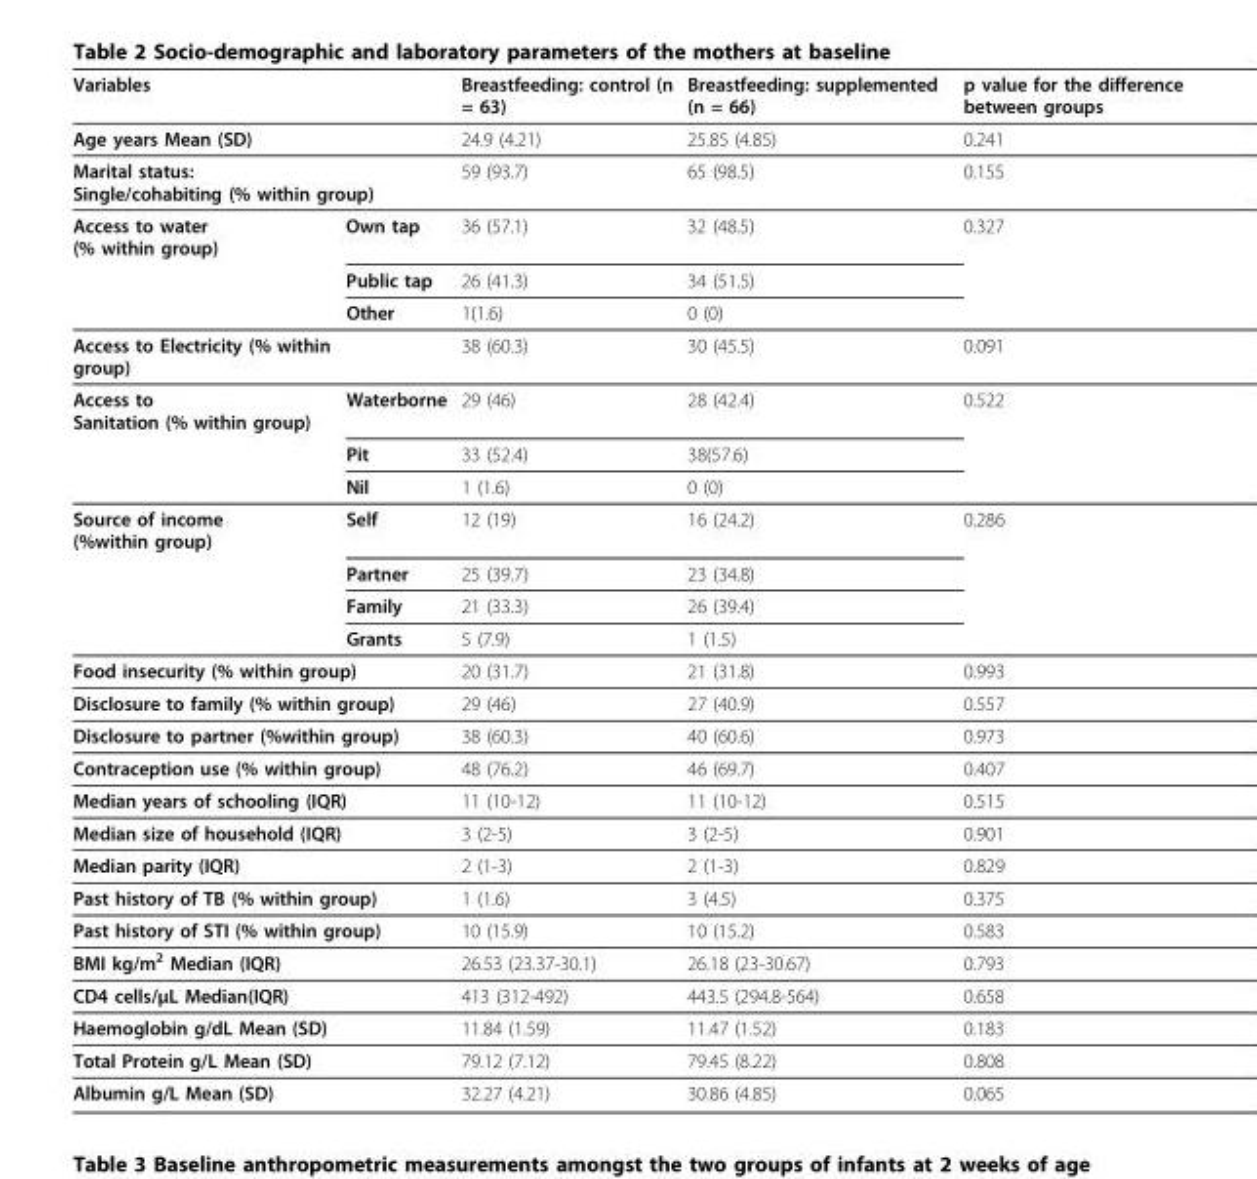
<table><thead><tr><td>Variables</td><td></td><td>Breastfeeding: control (n = 63)</td><td>Breastfeeding: supplemented (n = 66)</td><td>p value for the difference between groups</td></tr></thead><tbody><tr><td>Age years Mean (SD)</td><td></td><td>24.9 (4.21)</td><td>25.85 (4.85)</td><td>0.241</td></tr><tr><td colspan="2">Marital status: Single/cohabiting (% within group)</td><td>59 (93.7)</td><td>65 (98.5)</td><td>0.155</td></tr><tr><td rowspan="3">Access to water (% within group)</td><td>Own tap</td><td>36 (57.1)</td><td>32 (48.5)</td><td>0.327</td></tr><tr><td>Public tap</td><td>26 (41.3)</td><td>34 (51.5)</td><td></td></tr><tr><td>Other</td><td>1(1.6)</td><td>0 (0)</td><td></td></tr><tr><td>Access to Electricity (% within group)</td><td></td><td>38 (60.3)</td><td>30 (45.5)</td><td>0.091</td></tr><tr><td rowspan="3">Access to Sanitation (% within group)</td><td>Waterborne</td><td>29 (46)</td><td>28 (42.4)</td><td>0.522</td></tr><tr><td>Pit</td><td>33 (52.4)</td><td>38(57.6)</td><td></td></tr><tr><td>Nil</td><td>1 (1.6)</td><td>0 (0)</td><td></td></tr><tr><td rowspan="4">Source of income (%within group)</td><td>Self</td><td>12 (19)</td><td>16 (24.2)</td><td>0.286</td></tr><tr><td>Partner</td><td>25 (39.7)</td><td>23 (34.8)</td><td></td></tr><tr><td>Family</td><td>21 (33.3)</td><td>26 (39.4)</td><td></td></tr><tr><td>Grants</td><td>5 (7.9)</td><td>1 (1.5)</td><td></td></tr><tr><td colspan="2">Food insecurity (% within group)</td><td>20 (31.7)</td><td>21 (31.8)</td><td>0.993</td></tr><tr><td colspan="2">Disclosure to family (% within group)</td><td>29 (46)</td><td>27 (40.9)</td><td>0.557</td></tr><tr><td colspan="2">Disclosure to partner (%within group)</td><td>38 (60.3)</td><td>40 (60.6)</td><td>0.973</td></tr><tr><td colspan="2">Contraception use (% within group)</td><td>48 (76.2)</td><td>46 (69.7)</td><td>0.407</td></tr><tr><td colspan="2">Median years of schooling (IQR)</td><td>11 (10-12)</td><td>11 (10-12)</td><td>0.515</td></tr><tr><td colspan="2">Median size of household (IQR)</td><td>3 (2-5)</td><td>3 (2-5)</td><td>0.901</td></tr><tr><td colspan="2">Median parity (IQR)</td><td>2 (1-3)</td><td>2 (1-3)</td><td>0.829</td></tr><tr><td colspan="2">Past history of TB (% within group)</td><td>1 (1.6)</td><td>3 (4.5)</td><td>0.375</td></tr><tr><td colspan="2">Past history of STI (% within group)</td><td>10 (15.9)</td><td>10 (15.2)</td><td>0.583</td></tr><tr><td colspan="2">BMI kg/m<sup>2</sup> Median (IQR)</td><td>26.53 (23.37-30.1)</td><td>26.18 (23-30.67)</td><td>0.793</td></tr><tr><td colspan="2">CD4 cells/μL Median(IQR)</td><td>413 (312-492)</td><td>443.5 (294.8-564)</td><td>0.658</td></tr><tr><td colspan="2">Haemoglobin g/dL Mean (SD)</td><td>11.84 (1.59)</td><td>11.47 (1.52)</td><td>0.183</td></tr><tr><td colspan="2">Total Protein g/L Mean (SD)</td><td>79.12 (7.12)</td><td>79.45 (8.22)</td><td>0.808</td></tr><tr><td colspan="2">Albumin g/L Mean (SD)</td><td>32.27 (4.21)</td><td>30.86 (4.85)</td><td>0.065</td></tr></tbody></table>